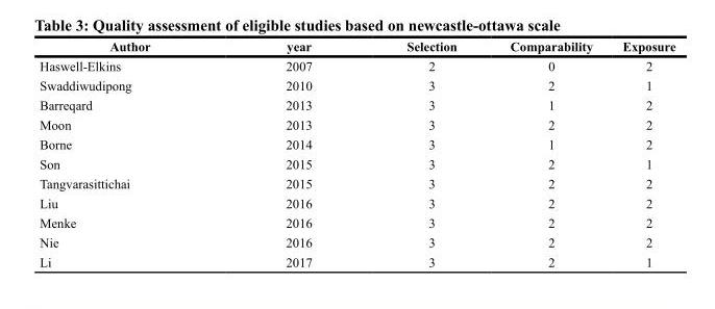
<table><thead><tr><td>Author</td><td>year</td><td>Selection</td><td>Comparability</td><td>Exposure</td></tr></thead><tbody><tr><td>Haswell-Elkins</td><td>2007</td><td>2</td><td>0</td><td>2</td></tr><tr><td>Swaddiwudipong</td><td>2010</td><td>3</td><td>2</td><td>1</td></tr><tr><td>Barreqard</td><td>2013</td><td>3</td><td>1</td><td>2</td></tr><tr><td>Moon</td><td>2013</td><td>3</td><td>2</td><td>2</td></tr><tr><td>Borne</td><td>2014</td><td>3</td><td>1</td><td>2</td></tr><tr><td>Son</td><td>2015</td><td>3</td><td>2</td><td>1</td></tr><tr><td>Tangvarasittichai</td><td>2015</td><td>3</td><td>2</td><td>2</td></tr><tr><td>Liu</td><td>2016</td><td>3</td><td>2</td><td>2</td></tr><tr><td>Menke</td><td>2016</td><td>3</td><td>2</td><td>2</td></tr><tr><td>Nie</td><td>2016</td><td>3</td><td>2</td><td>2</td></tr><tr><td>Li</td><td>2017</td><td>3</td><td>2</td><td>1</td></tr></tbody></table>